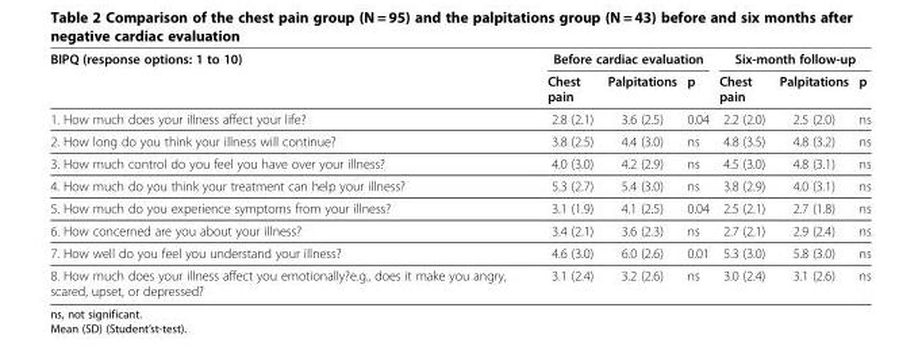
<table><thead><tr><td rowspan="2">BIPQ (response options: 1 to 10)</td><td colspan="3">Before cardiac evaluation</td><td colspan="3">Six-month follow-up</td></tr><tr><td>Chest pain</td><td>Palpitations</td><td>p</td><td>Chest pain</td><td>Palpitations</td><td>p</td></tr></thead><tbody><tr><td>1. How much does your illness affect your life?</td><td>2.8 (2.1)</td><td>3.6 (2.5)</td><td>0.04</td><td>2.2 (2.0)</td><td>2.5 (2.0)</td><td>ns</td></tr><tr><td>2. How long do you think your illness will continue?</td><td>3.8 (2.5)</td><td>4.4 (3.0)</td><td>ns</td><td>4.8 (3.5)</td><td>4.8 (3.2)</td><td>ns</td></tr><tr><td>3. How much control do you feel you have over your illness?</td><td>4.0 (3.0)</td><td>4.2 (2.9)</td><td>ns</td><td>4.5 (3.0)</td><td>4.8 (3.1)</td><td>ns</td></tr><tr><td>4. How much do you think your treatment can help your illness?</td><td>5.3 (2.7)</td><td>5.4 (3.0)</td><td>ns</td><td>3.8 (2.9)</td><td>4.0 (3.1)</td><td>ns</td></tr><tr><td>5. How much do you experience symptoms from your illness?</td><td>3.1 (1.9)</td><td>4.1 (2.5)</td><td>0.04</td><td>2.5 (2.1)</td><td>2.7 (1.8)</td><td>ns</td></tr><tr><td>6. How concerned are you about your illness?</td><td>3.4 (2.1)</td><td>3.6 (2.3)</td><td>ns</td><td>2.7 (2.1)</td><td>2.9 (2.4)</td><td>ns</td></tr><tr><td>7. How well do you feel you understand your illness?</td><td>4.6 (3.0)</td><td>6.0 (2.6)</td><td>0.01</td><td>5.3 (3.0)</td><td>5.8 (3.0)</td><td>ns</td></tr><tr><td>8. How much does your illness affect you emotionally?e.g., does it make you angry, scared, upset, or depressed?</td><td>3.1 (2.4)</td><td>3.2 (2.6)</td><td>ns</td><td>3.0 (2.4)</td><td>3.1 (2.6)</td><td>ns</td></tr></tbody></table>